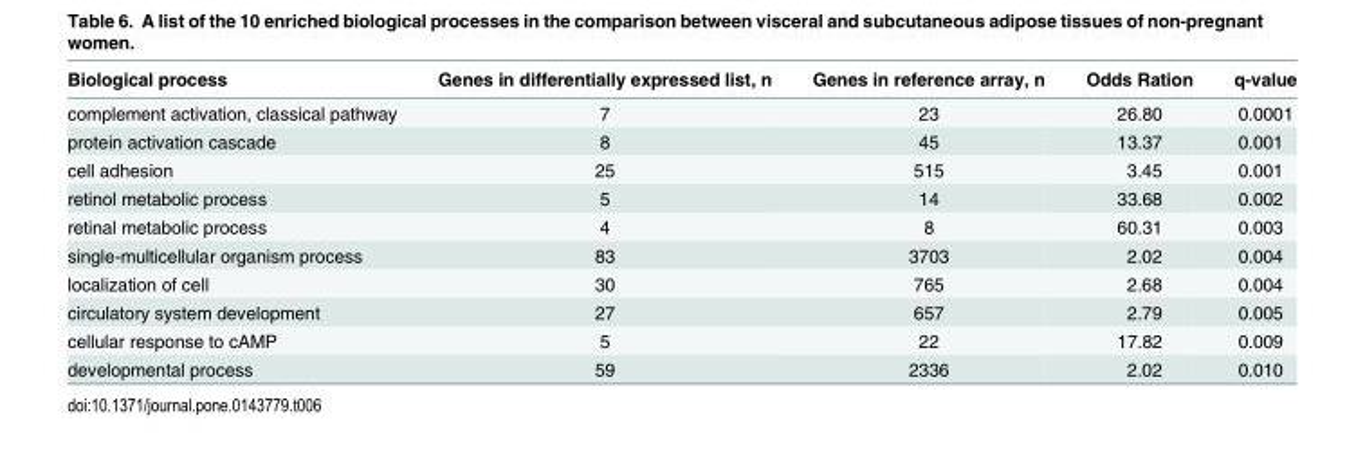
<table><thead><tr><td>Biological process</td><td>Genes in differentially expressed list, n</td><td>Genes in reference array, n</td><td>Odds Ration</td><td>q-value</td></tr></thead><tbody><tr><td>complement activation, classical pathway</td><td>7</td><td>23</td><td>26.80</td><td>0.0001</td></tr><tr><td>protein activation cascade</td><td>8</td><td>45</td><td>13.37</td><td>0.001</td></tr><tr><td>cell adhesion</td><td>25</td><td>515</td><td>3.45</td><td>0.001</td></tr><tr><td>retinol metabolic process</td><td>5</td><td>14</td><td>33.68</td><td>0.002</td></tr><tr><td>retinal metabolic process</td><td>4</td><td>8</td><td>60.31</td><td>0.003</td></tr><tr><td>single-multicellular organism process</td><td>83</td><td>3703</td><td>2.02</td><td>0.004</td></tr><tr><td>localization of cell</td><td>30</td><td>765</td><td>2.68</td><td>0.004</td></tr><tr><td>circulatory system development</td><td>27</td><td>657</td><td>2.79</td><td>0.005</td></tr><tr><td>cellular response to cAMP</td><td>5</td><td>22</td><td>17.82</td><td>0.009</td></tr><tr><td>developmental process</td><td>59</td><td>2336</td><td>2.02</td><td>0.010</td></tr></tbody></table>